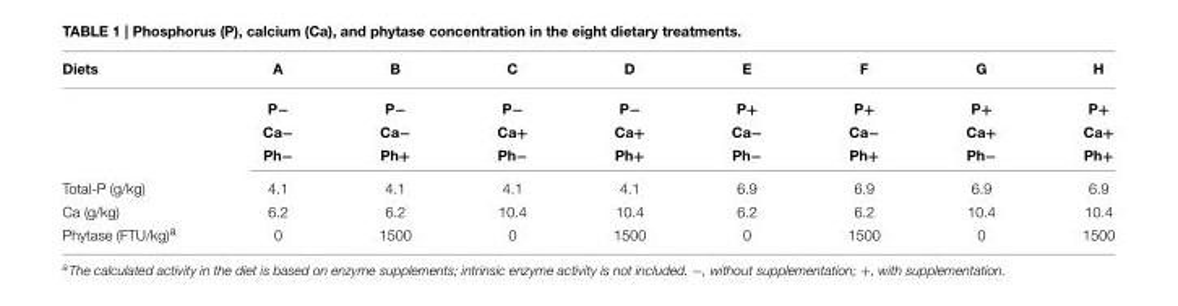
<table><thead><tr><td>Diets</td><td>A</td><td>B</td><td>C</td><td>D</td><td>E</td><td>F</td><td>G</td><td>H</td></tr></thead><tbody><tr><td></td><td>P−</td><td>P−</td><td>P−</td><td>P−</td><td>P+</td><td>P+</td><td>P+</td><td>P+</td></tr><tr><td></td><td>Ca−</td><td>Ca−</td><td>Ca+</td><td>Ca+</td><td>Ca−</td><td>Ca−</td><td>Ca+</td><td>Ca+</td></tr><tr><td></td><td>Ph−</td><td>Ph+</td><td>Ph−</td><td>Ph+</td><td>Ph−</td><td>Ph+</td><td>Ph−</td><td>Ph+</td></tr><tr><td>Total-P (g/kg)</td><td>4.1</td><td>4.1</td><td>4.1</td><td>4.1</td><td>6.9</td><td>6.9</td><td>6.9</td><td>6.9</td></tr><tr><td>Ca (g/kg)</td><td>6.2</td><td>6.2</td><td>10.4</td><td>10.4</td><td>6.2</td><td>6.2</td><td>10.4</td><td>10.4</td></tr><tr><td>Phytase (FTU/kg)<sup>a</sup></td><td>0</td><td>1500</td><td>0</td><td>1500</td><td>0</td><td>1500</td><td>0</td><td>1500</td></tr></tbody></table>